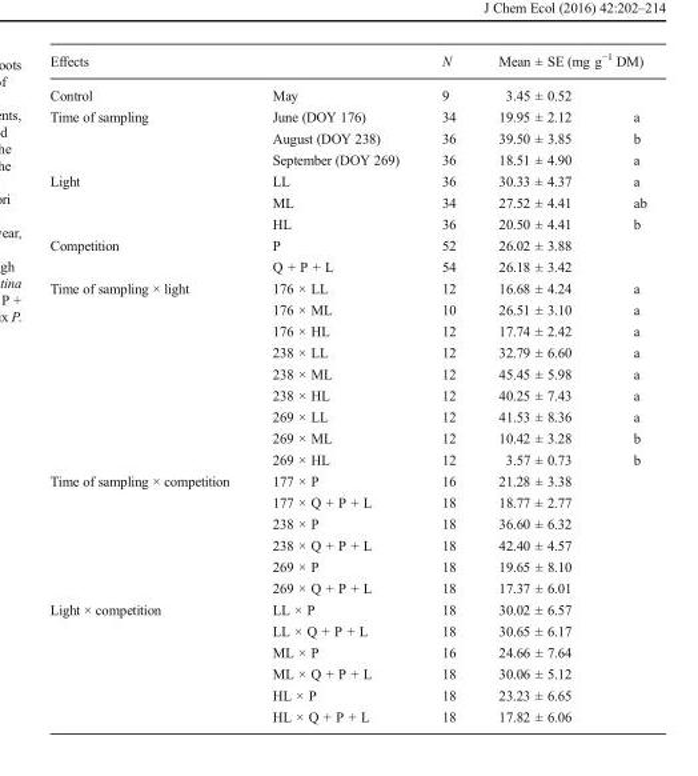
<table><thead><tr><td colspan="2">Effects</td><td rowspan="2">N 9</td><td colspan="2">Mean ± SE (mg g<sup>−1</sup> DM)</td></tr><tr><td>Control</td><td>May</td><td>3.45 ± 0.52</td><td></td></tr></thead><tbody><tr><td rowspan="3">Time of sampling</td><td>June (DOY 176)</td><td>34</td><td>19.95 ± 2.12</td><td>a</td></tr><tr><td>August (DOY 238)</td><td>36</td><td>39.50 ± 3.85</td><td>b</td></tr><tr><td>September (DOY 269)</td><td>36</td><td>18.51 ± 4.90</td><td>a</td></tr><tr><td rowspan="3">Light</td><td>LL</td><td>36</td><td>30.33 ± 4.37</td><td>a</td></tr><tr><td>ML</td><td>34</td><td>27.52 ± 4.41</td><td>ab</td></tr><tr><td>HL</td><td>36</td><td>20.50 ± 4.41</td><td>b</td></tr><tr><td rowspan="2">Competition</td><td>P</td><td>52</td><td>26.02 ± 3.88</td><td></td></tr><tr><td>Q + P + L</td><td>54</td><td>26.18 ± 3.42</td><td></td></tr><tr><td rowspan="9">Time of sampling × light</td><td>176 × LL</td><td>12</td><td>16.68 ± 4.24</td><td>a</td></tr><tr><td>176 × ML</td><td>10</td><td>26.51 ± 3.10</td><td>a</td></tr><tr><td>176 × HL</td><td>12</td><td>17.74 ± 2.42</td><td>a</td></tr><tr><td>238 × LL</td><td>12</td><td>32.79 ± 6.60</td><td>a</td></tr><tr><td>238 × ML</td><td>12</td><td>45.45 ± 5.98</td><td>a</td></tr><tr><td>238 × HL</td><td>12</td><td>40.25 ± 7.43</td><td>a</td></tr><tr><td>269 × LL</td><td>12</td><td>41.53 ± 8.36</td><td>a</td></tr><tr><td>269 × ML</td><td>12</td><td>10.42 ± 3.28</td><td>b</td></tr><tr><td>269 × HL</td><td>12</td><td>3.57 ± 0.73</td><td>b</td></tr><tr><td rowspan="6">Time of sampling × competition</td><td>177 × P</td><td>16</td><td>21.28 ± 3.38</td><td></td></tr><tr><td>177 × Q + P + L</td><td>18</td><td>18.77 ± 2.77</td><td></td></tr><tr><td>238 × P</td><td>18</td><td>36.60 ± 6.32</td><td></td></tr><tr><td>238 × Q + P + L</td><td>18</td><td>42.40 ± 4.57</td><td></td></tr><tr><td>269 × P</td><td>18</td><td>19.65 ± 8.10</td><td></td></tr><tr><td>269 × Q + P + L</td><td>18</td><td>17.37 ± 6.01</td><td></td></tr><tr><td rowspan="6">Light × competition</td><td>LL × P</td><td>18</td><td>30.02 ± 6.57</td><td></td></tr><tr><td>LL × Q + P + L</td><td>18</td><td>30.65 ± 6.17</td><td></td></tr><tr><td>ML × P</td><td>16</td><td>24.66 ± 7.64</td><td></td></tr><tr><td>ML × Q + P + L</td><td>18</td><td>30.06 ± 5.12</td><td></td></tr><tr><td>HL × P</td><td>18</td><td>23.23 ± 6.65</td><td></td></tr><tr><td>HL × Q + P + L</td><td>18</td><td>17.82 ± 6.06</td><td></td></tr></tbody></table>